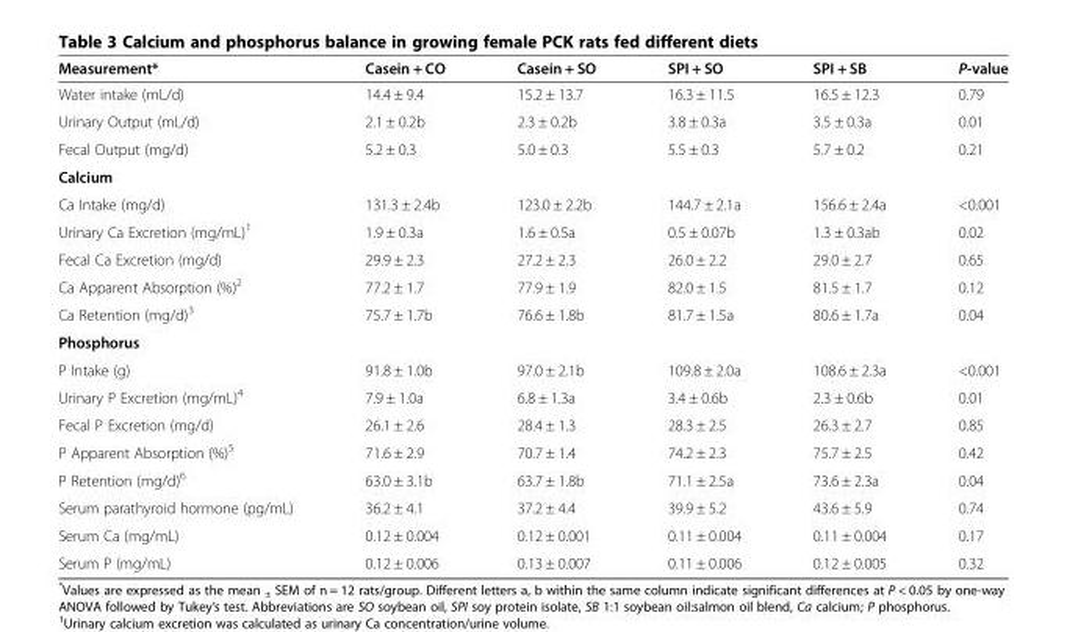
<table><thead><tr><td>Measurement*</td><td>Casein + CO</td><td>Casein + SO</td><td>SPI + SO</td><td>SPI + SB</td><td>P-value</td></tr></thead><tbody><tr><td>Water intake (mL/d)</td><td>14.4 ± 9.4</td><td>15.2 ± 13.7</td><td>16.3 ± 11.5</td><td>16.5 ± 12.3</td><td>0.79</td></tr><tr><td>Urinary Output (mL/d)</td><td>2.1 ± 0.2b</td><td>2.3 ± 0.2b</td><td>3.8 ± 0.3a</td><td>3.5 ± 0.3a</td><td>0.01</td></tr><tr><td>Fecal Output (mg/d)</td><td>5.2 ± 0.3</td><td>5.0 ± 0.3</td><td>5.5 ± 0.3</td><td>5.7 ± 0.2</td><td>0.21</td></tr><tr><td colspan="6">Calcium</td></tr><tr><td>Ca Intake (mg/d)</td><td>131.3 ± 2.4b</td><td>123.0 ± 2.2b</td><td>144.7 ± 2.1a</td><td>156.6 ± 2.4a</td><td>&lt;0.001</td></tr><tr><td>Urinary Ca Excretion (mg/mL)<sup>1</sup></td><td>1.9 ± 0.3a</td><td>1.6 ± 0.5a</td><td>0.5 ± 0.07b</td><td>1.3 ± 0.3ab</td><td>0.02</td></tr><tr><td>Fecal Ca Excretion (mg/d)</td><td>29.9 ± 2.3</td><td>27.2 ± 2.3</td><td>26.0 ± 2.2</td><td>29.0 ± 2.7</td><td>0.65</td></tr><tr><td>Ca Apparent Absorption (%)<sup>2</sup></td><td>77.2 ± 1.7</td><td>77.9 ± 1.9</td><td>82.0 ± 1.5</td><td>81.5 ± 1.7</td><td>0.12</td></tr><tr><td>Ca Retention (mg/d)<sup>3</sup></td><td>75.7 ± 1.7b</td><td>76.6 ± 1.8b</td><td>81.7 ± 1.5a</td><td>80.6 ± 1.7a</td><td>0.04</td></tr><tr><td colspan="6">Phosphorus</td></tr><tr><td>P Intake (g)</td><td>91.8 ± 1.0b</td><td>97.0 ± 2.1b</td><td>109.8 ± 2.0a</td><td>108.6 ± 2.3a</td><td>&lt;0.001</td></tr><tr><td>Urinary P Excretion (mg/mL)<sup>4</sup></td><td>7.9 ± 1.0a</td><td>6.8 ± 1.3a</td><td>3.4 ± 0.6b</td><td>2.3 ± 0.6b</td><td>0.01</td></tr><tr><td>Fecal P Excretion (mg/d)</td><td>26.1 ± 2.6</td><td>28.4 ± 1.3</td><td>28.3 ± 2.5</td><td>26.3 ± 2.7</td><td>0.85</td></tr><tr><td>P Apparent Absorption (%)<sup>5</sup></td><td>71.6 ± 2.9</td><td>70.7 ± 1.4</td><td>74.2 ± 2.3</td><td>75.7 ± 2.5</td><td>0.42</td></tr><tr><td>P Retention (mg/d)<sup>6</sup></td><td>63.0 ± 3.1b</td><td>63.7 ± 1.8b</td><td>71.1 ± 2.5a</td><td>73.6 ± 2.3a</td><td>0.04</td></tr><tr><td>Serum parathyroid hormone (pg/mL)</td><td>36.2 ± 4.1</td><td>37.2 ± 4.4</td><td>39.9 ± 5.2</td><td>43.6 ± 5.9</td><td>0.74</td></tr><tr><td>Serum Ca (mg/mL)</td><td>0.12 ± 0.004</td><td>0.12 ± 0.001</td><td>0.11 ± 0.004</td><td>0.11 ± 0.004</td><td>0.17</td></tr><tr><td>Serum P (mg/mL)</td><td>0.12 ± 0.006</td><td>0.13 ± 0.007</td><td>0.11 ± 0.006</td><td>0.12 ± 0.005</td><td>0.32</td></tr></tbody></table>